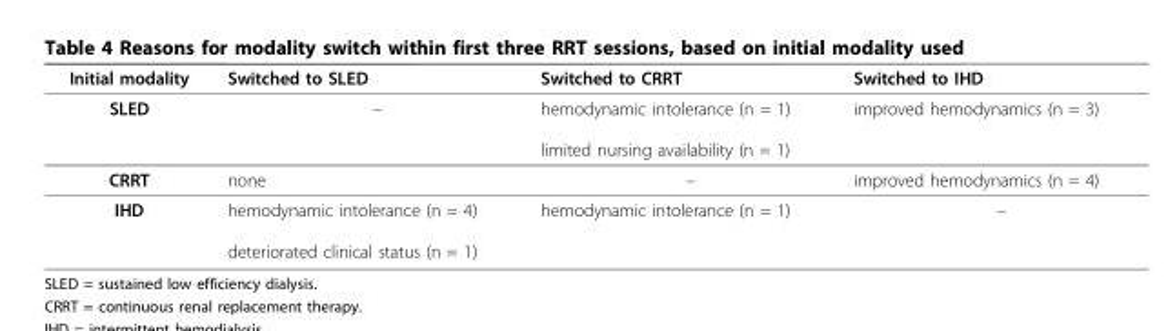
<table><thead><tr><td>Initial modality</td><td>Switched to SLED</td><td>Switched to CRRT</td><td>Switched to IHD</td></tr></thead><tbody><tr><td>SLED</td><td>–</td><td>hemodynamic intolerance (n = 1) limited nursing availability (n = 1)</td><td>improved hemodynamics (n = 3)</td></tr><tr><td>CRRT</td><td>none</td><td>–</td><td>improved hemodynamics (n = 4)</td></tr><tr><td>IHD</td><td>hemodynamic intolerance (n = 4) deteriorated clinical status (n = 1)</td><td>hemodynamic intolerance (n = 1)</td><td>–</td></tr></tbody></table>